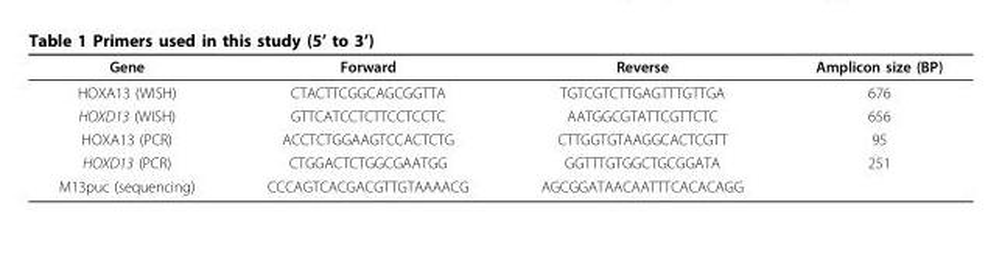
<table><thead><tr><td>Gene</td><td>Forward</td><td>Reverse</td><td>Amplicon size (BP)</td></tr></thead><tbody><tr><td>HOXA13 (WISH)</td><td>CTACTTCGGCAGCGGTTA</td><td>TGTCGTCTTGAGTTTGTTGA</td><td>676</td></tr><tr><td>HOXD13 (WISH)</td><td>GTTCATCCTCTTCCTCCTC</td><td>AATGGCGTATTCGTTCTC</td><td>656</td></tr><tr><td>HOXA13 (PCR)</td><td>ACCTCTGGAAGTCCACTCTG</td><td>CTTGGTGTAAGGCACTCGTT</td><td>95</td></tr><tr><td>HOXD13 (PCR)</td><td>CTGGACTCTGGCGAATGG</td><td>GGTTTGTGGCTGCGGATA</td><td>251</td></tr><tr><td>M13puc (sequencing)</td><td>CCCAGTCACGACGTTGTAAAACG</td><td>AGCGGATAACAATTTCACACAGG</td><td></td></tr></tbody></table>